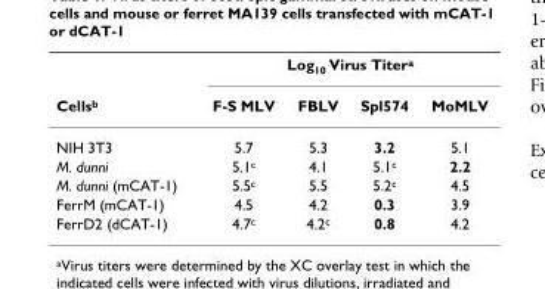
<table><thead><tr><td rowspan="2">Cells<sup>b</sup></td><td colspan="4">Log<sub>10</sub> Virus Titer<sup>a</sup></td></tr><tr><td>F-S MLV</td><td>FBLV</td><td>Spl574</td><td>MoMLV</td></tr></thead><tbody><tr><td>NIH 3T3</td><td>5.7</td><td>5.3</td><td>3.2</td><td>5.1</td></tr><tr><td>M. dunni</td><td>5.1<sup>c</sup></td><td>4.1</td><td>5.1<sup>c</sup></td><td>2.2</td></tr><tr><td>M. dunni (mCAT-1)</td><td>5.5<sup>c</sup></td><td>5.5</td><td>5.2<sup>c</sup></td><td>4.5</td></tr><tr><td>FerrM (mCAT-1)</td><td>4.5</td><td>4.2</td><td>0.3</td><td>3.9</td></tr><tr><td>FerrD2 (dCAT-1)</td><td>4.7<sup>c</sup></td><td>4.2<sup>c</sup></td><td>0.8</td><td>4.2</td></tr></tbody></table>